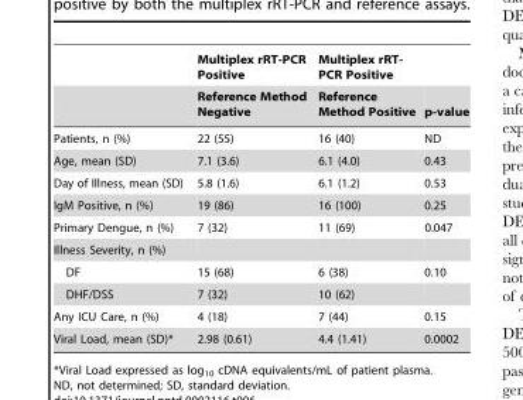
<table><thead><tr><td rowspan="2"></td><td rowspan="2">Multiplex rRT-PCR Positive Reference Method Negative</td><td rowspan="2">Multiplex rRT- PCR Positive Reference Method Positive</td><td rowspan="2">p-value</td></tr><tr></tr></thead><tbody><tr><td>Patients, n (%)</td><td>22 (55)</td><td>16 (40)</td><td>ND</td></tr><tr><td>Age, mean (SD)</td><td>7.1 (3.6)</td><td>6.1 (4.0)</td><td>0.43</td></tr><tr><td>Day of Illness, mean (SD)</td><td>5.8 (1.6)</td><td>6.1 (1.2)</td><td>0.53</td></tr><tr><td>IgM Positive, n (%)</td><td>19 (86)</td><td>16 (100)</td><td>0.25</td></tr><tr><td>Primary Dengue, n (%)</td><td>7 (32)</td><td>11 (69)</td><td>0.047</td></tr><tr><td colspan="4">Illness Severity, n (%)</td></tr><tr><td>DF</td><td>15 (68)</td><td>6 (38)</td><td>0.10</td></tr><tr><td>DHF/DSS</td><td>7 (32)</td><td>10 (62)</td><td></td></tr><tr><td>Any ICU Care, n (%)</td><td>4 (18)</td><td>7 (44)</td><td>0.15</td></tr><tr><td>Viral Load, mean (SD)*</td><td>2.98 (0.61)</td><td>4.4 (1.41)</td><td>0.0002</td></tr></tbody></table>